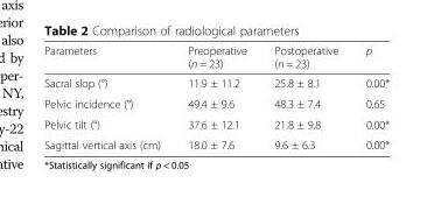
<table><thead><tr><td>Parameters</td><td>Preoperative (n = 23)</td><td>Postoperative (n = 23)</td><td>p</td></tr></thead><tbody><tr><td>Sacral slop (°)</td><td>11.9 ± 11.2</td><td>25.8 ± 8.1</td><td>0.00*</td></tr><tr><td>Pelvic incidence (°)</td><td>49.4 ± 9.6</td><td>48.3 ± 7.4</td><td>0.65</td></tr><tr><td>Pelvic tilt (°)</td><td>37.6 ± 12.1</td><td>21.8 ± 9.8</td><td>0.00*</td></tr><tr><td>Sagittal vertical axis (cm)</td><td>18.0 ± 7.6</td><td>9.6 ± 6.3</td><td>0.00*</td></tr></tbody></table>